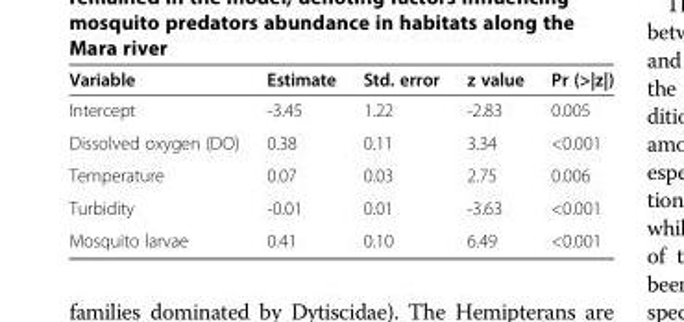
<table><thead><tr><td>Variable</td><td>Estimate</td><td>Std. error</td><td>z value</td><td>Pr (&gt;|z|)</td></tr></thead><tbody><tr><td>Intercept</td><td>-3.45</td><td>1.22</td><td>-2.83</td><td>0.005</td></tr><tr><td>Dissolved oxygen (DO)</td><td>0.38</td><td>0.11</td><td>3.34</td><td>&lt;0.001</td></tr><tr><td>Temperature</td><td>0.07</td><td>0.03</td><td>2.75</td><td>0.006</td></tr><tr><td>Turbidity</td><td>-0.01</td><td>0.01</td><td>-3.63</td><td>&lt;0.001</td></tr><tr><td>Mosquito larvae</td><td>0.41</td><td>0.10</td><td>6.49</td><td>&lt;0.001</td></tr></tbody></table>